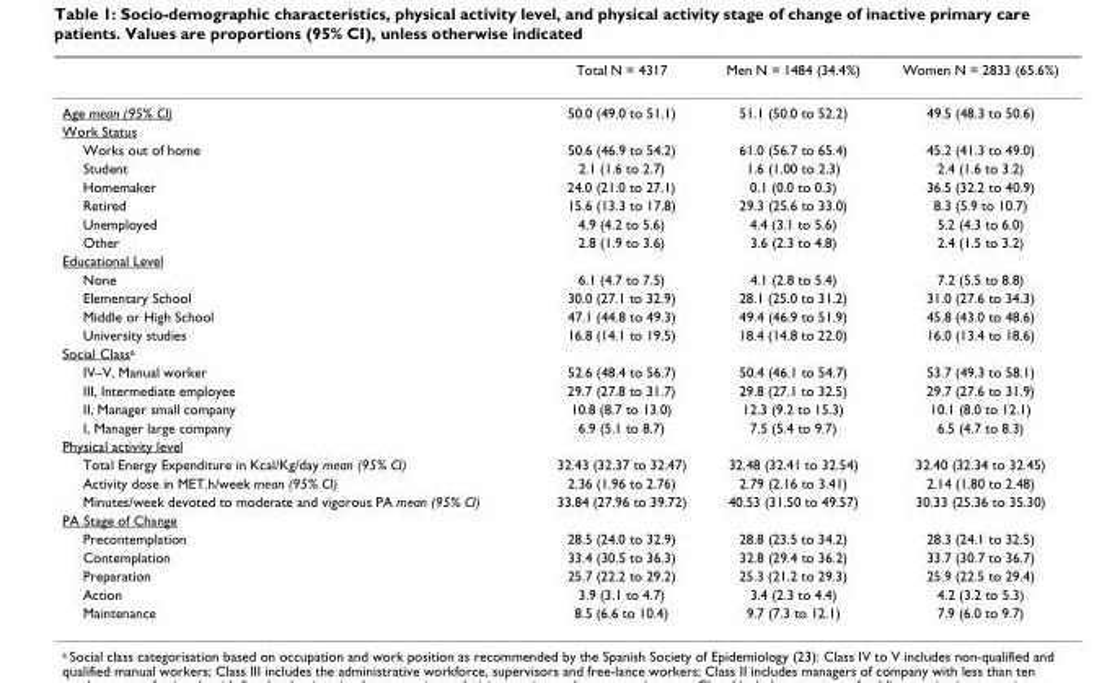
<table><thead><tr><td></td><td>Total N = 4317</td><td>Men N = 1484 (34.4%)</td><td>Women N = 2833 (65.6%)</td></tr></thead><tbody><tr><td>Age mean (95% CI)</td><td>50.0 (49.0 to 51.1)</td><td>51.1 (50.0 to 52.2)</td><td>49.5 (48.3 to 50.6)</td></tr><tr><td colspan="4">Work Status</td></tr><tr><td>Works out of home</td><td>50.6 (46.9 to 54.2)</td><td>61.0 (56.7 to 65.4)</td><td>45.2 (41.3 to 49.0)</td></tr><tr><td>Student</td><td>2.1 (1.6 to 2.7)</td><td>1.6 (1.00 to 2.3)</td><td>2.4 (1.6 to 3.2)</td></tr><tr><td>Homemaker</td><td>24.0 (21.0 to 27.1)</td><td>0.1 (0.0 to 0.3)</td><td>36.5 (32.2 to 40.9)</td></tr><tr><td>Retired</td><td>15.6 (13.3 to 17.8)</td><td>29.3 (25.6 to 33.0)</td><td>8.3 (5.9 to 10.7)</td></tr><tr><td>Unemployed</td><td>4.9 (4.2 to 5.6)</td><td>4.4 (3.1 to 5.6)</td><td>5.2 (4.3 to 6.0)</td></tr><tr><td>Other</td><td>2.8 (1.9 to 3.6)</td><td>3.6 (2.3 to 4.8)</td><td>2.4 (1.5 to 3.2)</td></tr><tr><td colspan="4">Educational Level</td></tr><tr><td>None</td><td>6.1 (4.7 to 7.5)</td><td>4.1 (2.8 to 5.4)</td><td>7.2 (5.5 to 8.8)</td></tr><tr><td>Elementary School</td><td>30.0 (27.1 to 32.9)</td><td>28.1 (25.0 to 31.2)</td><td>31.0 (27.6 to 34.3)</td></tr><tr><td>Middle or High School</td><td>47.1 (44.8 to 49.3)</td><td>49.4 (46.9 to 51.9)</td><td>45.8 (43.0 to 48.6)</td></tr><tr><td>University studies</td><td>16.8 (14.1 to 19.5)</td><td>18.4 (14.8 to 22.0)</td><td>16.0 (13.4 to 18.6)</td></tr><tr><td colspan="4">Social Class<sup>a</sup></td></tr><tr><td>IV–V, Manual worker</td><td>52.6 (48.4 to 56.7)</td><td>50.4 (46.1 to 54.7)</td><td>53.7 (49.3 to 58.1)</td></tr><tr><td>III, Intermediate employee</td><td>29.7 (27.8 to 31.7)</td><td>29.8 (27.1 to 32.5)</td><td>29.7 (27.6 to 31.9)</td></tr><tr><td>II, Manager small company</td><td>10.8 (8.7 to 13.0)</td><td>12.3 (9.2 to 15.3)</td><td>10.1 (8.0 to 12.1)</td></tr><tr><td>I, Manager large company</td><td>6.9 (5.1 to 8.7)</td><td>7.5 (5.4 to 9.7)</td><td>6.5 (4.7 to 8.3)</td></tr><tr><td colspan="4">Physical activity level</td></tr><tr><td>Total Energy Expenditure in Kcal/Kg/day mean (95% CI)</td><td>32.43 (32.37 to 32.47)</td><td>32.48 (32.41 to 32.54)</td><td>32.40 (32.34 to 32.45)</td></tr><tr><td>Activity dose in MET.h/week mean (95% CI)</td><td>2.36 (1.96 to 2.76)</td><td>2.79 (2.16 to 3.41)</td><td>2.14 (1.80 to 2.48)</td></tr><tr><td>Minutes/week devoted to moderate and vigorous PA mean (95% CI)</td><td>33.84 (27.96 to 39.72)</td><td>40.53 (31.50 to 49.57)</td><td>30.33 (25.36 to 35.30)</td></tr><tr><td colspan="4">PA Stage of Change</td></tr><tr><td>Precontemplation</td><td>28.5 (24.0 to 32.9)</td><td>28.8 (23.5 to 34.2)</td><td>28.3 (24.1 to 32.5)</td></tr><tr><td>Contemplation</td><td>33.4 (30.5 to 36.3)</td><td>32.8 (29.4 to 36.2)</td><td>33.7 (30.7 to 36.7)</td></tr><tr><td>Preparation</td><td>25.7 (22.2 to 29.2)</td><td>25.3 (21.2 to 29.3)</td><td>25.9 (22.5 to 29.4)</td></tr><tr><td>Action</td><td>3.9 (3.1 to 4.7)</td><td>3.4 (2.3 to 4.4)</td><td>4.2 (3.2 to 5.3)</td></tr><tr><td>Maintenance</td><td>8.5 (6.6 to 10.4)</td><td>9.7 (7.3 to 12.1)</td><td>7.9 (6.0 to 9.7)</td></tr></tbody></table>